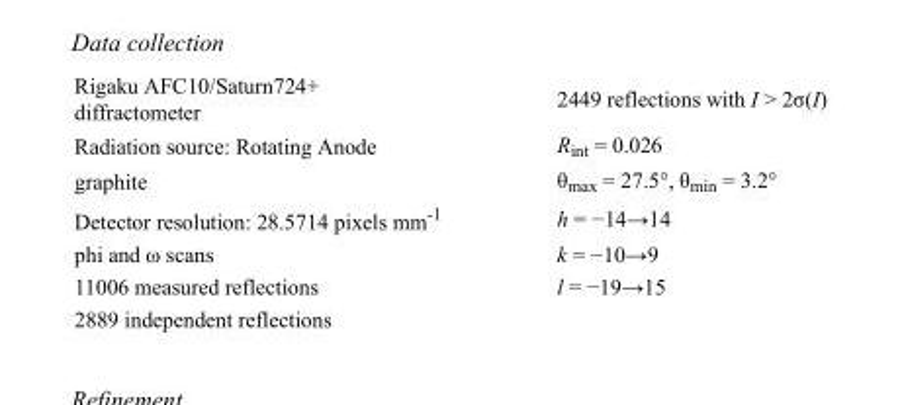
<table><tbody><tr><td>Rigaku AFC10/Saturn724+ diffractometer</td><td>2449 reflections with I &gt; 2σ(I)</td></tr><tr><td>Radiation source: Rotating Anode</td><td>R<sub>int</sub> = 0.026</td></tr><tr><td>graphite</td><td>θ<sub>max</sub> = 27.5°, θ<sub>min</sub> = 3.2°</td></tr><tr><td>Detector resolution: 28.5714 pixels mm<sup>-1</sup></td><td>h = −14→14</td></tr><tr><td>phi and ω scans</td><td>k = −10→9</td></tr><tr><td>11006 measured reflections</td><td>l = −19→15</td></tr><tr><td>2889 independent reflections</td><td></td></tr></tbody></table>